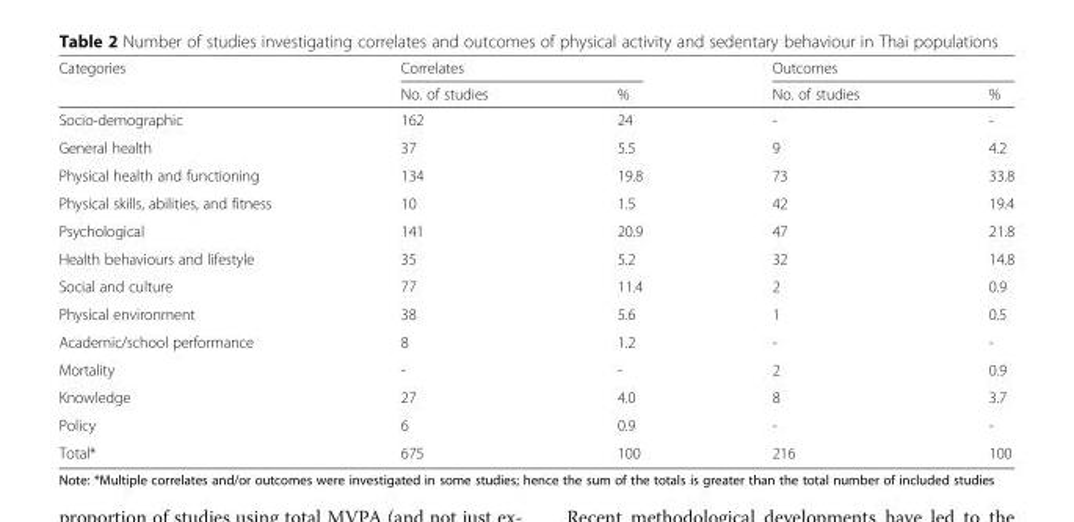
<table><thead><tr><td rowspan="2">Categories</td><td colspan="2">Correlates</td><td colspan="2">Outcomes</td></tr><tr><td>No. of studies</td><td>%</td><td>No. of studies</td><td>%</td></tr></thead><tbody><tr><td>Socio-demographic</td><td>162</td><td>24</td><td>-</td><td>-</td></tr><tr><td>General health</td><td>37</td><td>5.5</td><td>9</td><td>4.2</td></tr><tr><td>Physical health and functioning</td><td>134</td><td>19.8</td><td>73</td><td>33.8</td></tr><tr><td>Physical skills, abilities, and fitness</td><td>10</td><td>1.5</td><td>42</td><td>19.4</td></tr><tr><td>Psychological</td><td>141</td><td>20.9</td><td>47</td><td>21.8</td></tr><tr><td>Health behaviours and lifestyle</td><td>35</td><td>5.2</td><td>32</td><td>14.8</td></tr><tr><td>Social and culture</td><td>77</td><td>11.4</td><td>2</td><td>0.9</td></tr><tr><td>Physical environment</td><td>38</td><td>5.6</td><td>1</td><td>0.5</td></tr><tr><td>Academic/school performance</td><td>8</td><td>1.2</td><td>-</td><td>-</td></tr><tr><td>Mortality</td><td>-</td><td>-</td><td>2</td><td>0.9</td></tr><tr><td>Knowledge</td><td>27</td><td>4.0</td><td>8</td><td>3.7</td></tr><tr><td>Policy</td><td>6</td><td>0.9</td><td>-</td><td>-</td></tr><tr><td>Total*</td><td>675</td><td>100</td><td>216</td><td>100</td></tr></tbody></table>